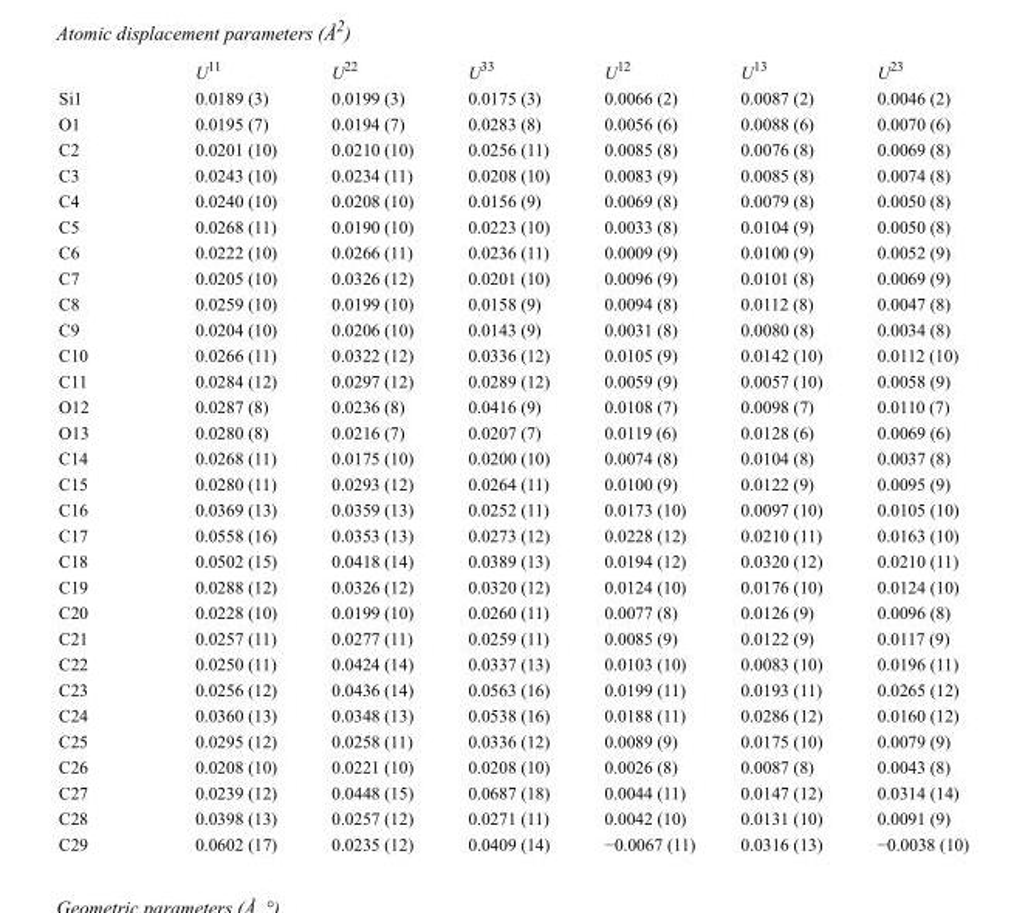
<table><thead><tr><td></td><td>U<sup>11</sup></td><td>U<sup>22</sup></td><td>U<sup>33</sup></td><td>U<sup>12</sup></td><td>U<sup>13</sup></td><td>U<sup>23</sup></td></tr></thead><tbody><tr><td>Si1</td><td>0.0189 (3)</td><td>0.0199 (3)</td><td>0.0175 (3)</td><td>0.0066 (2)</td><td>0.0087 (2)</td><td>0.0046 (2)</td></tr><tr><td>O1</td><td>0.0195 (7)</td><td>0.0194 (7)</td><td>0.0283 (8)</td><td>0.0056 (6)</td><td>0.0088 (6)</td><td>0.0070 (6)</td></tr><tr><td>C2</td><td>0.0201 (10)</td><td>0.0210 (10)</td><td>0.0256 (11)</td><td>0.0085 (8)</td><td>0.0076 (8)</td><td>0.0069 (8)</td></tr><tr><td>C3</td><td>0.0243 (10)</td><td>0.0234 (11)</td><td>0.0208 (10)</td><td>0.0083 (9)</td><td>0.0085 (8)</td><td>0.0074 (8)</td></tr><tr><td>C4</td><td>0.0240 (10)</td><td>0.0208 (10)</td><td>0.0156 (9)</td><td>0.0069 (8)</td><td>0.0079 (8)</td><td>0.0050 (8)</td></tr><tr><td>C5</td><td>0.0268 (11)</td><td>0.0190 (10)</td><td>0.0223 (10)</td><td>0.0033 (8)</td><td>0.0104 (9)</td><td>0.0050 (8)</td></tr><tr><td>C6</td><td>0.0222 (10)</td><td>0.0266 (11)</td><td>0.0236 (11)</td><td>0.0009 (9)</td><td>0.0100 (9)</td><td>0.0052 (9)</td></tr><tr><td>C7</td><td>0.0205 (10)</td><td>0.0326 (12)</td><td>0.0201 (10)</td><td>0.0096 (9)</td><td>0.0101 (8)</td><td>0.0069 (9)</td></tr><tr><td>C8</td><td>0.0259 (10)</td><td>0.0199 (10)</td><td>0.0158 (9)</td><td>0.0094 (8)</td><td>0.0112 (8)</td><td>0.0047 (8)</td></tr><tr><td>C9</td><td>0.0204 (10)</td><td>0.0206 (10)</td><td>0.0143 (9)</td><td>0.0031 (8)</td><td>0.0080 (8)</td><td>0.0034 (8)</td></tr><tr><td>C10</td><td>0.0266 (11)</td><td>0.0322 (12)</td><td>0.0336 (12)</td><td>0.0105 (9)</td><td>0.0142 (10)</td><td>0.0112 (10)</td></tr><tr><td>C11</td><td>0.0284 (12)</td><td>0.0297 (12)</td><td>0.0289 (12)</td><td>0.0059 (9)</td><td>0.0057 (10)</td><td>0.0058 (9)</td></tr><tr><td>O12</td><td>0.0287 (8)</td><td>0.0236 (8)</td><td>0.0416 (9)</td><td>0.0108 (7)</td><td>0.0098 (7)</td><td>0.0110 (7)</td></tr><tr><td>O13</td><td>0.0280 (8)</td><td>0.0216 (7)</td><td>0.0207 (7)</td><td>0.0119 (6)</td><td>0.0128 (6)</td><td>0.0069 (6)</td></tr><tr><td>C14</td><td>0.0268 (11)</td><td>0.0175 (10)</td><td>0.0200 (10)</td><td>0.0074 (8)</td><td>0.0104 (8)</td><td>0.0037 (8)</td></tr><tr><td>C15</td><td>0.0280 (11)</td><td>0.0293 (12)</td><td>0.0264 (11)</td><td>0.0100 (9)</td><td>0.0122 (9)</td><td>0.0095 (9)</td></tr><tr><td>C16</td><td>0.0369 (13)</td><td>0.0359 (13)</td><td>0.0252 (11)</td><td>0.0173 (10)</td><td>0.0097 (10)</td><td>0.0105 (10)</td></tr><tr><td>C17</td><td>0.0558 (16)</td><td>0.0353 (13)</td><td>0.0273 (12)</td><td>0.0228 (12)</td><td>0.0210 (11)</td><td>0.0163 (10)</td></tr><tr><td>C18</td><td>0.0502 (15)</td><td>0.0418 (14)</td><td>0.0389 (13)</td><td>0.0194 (12)</td><td>0.0320 (12)</td><td>0.0210 (11)</td></tr><tr><td>C19</td><td>0.0288 (12)</td><td>0.0326 (12)</td><td>0.0320 (12)</td><td>0.0124 (10)</td><td>0.0176 (10)</td><td>0.0124 (10)</td></tr><tr><td>C20</td><td>0.0228 (10)</td><td>0.0199 (10)</td><td>0.0260 (11)</td><td>0.0077 (8)</td><td>0.0126 (9)</td><td>0.0096 (8)</td></tr><tr><td>C21</td><td>0.0257 (11)</td><td>0.0277 (11)</td><td>0.0259 (11)</td><td>0.0085 (9)</td><td>0.0122 (9)</td><td>0.0117 (9)</td></tr><tr><td>C22</td><td>0.0250 (11)</td><td>0.0424 (14)</td><td>0.0337 (13)</td><td>0.0103 (10)</td><td>0.0083 (10)</td><td>0.0196 (11)</td></tr><tr><td>C23</td><td>0.0256 (12)</td><td>0.0436 (14)</td><td>0.0563 (16)</td><td>0.0199 (11)</td><td>0.0193 (11)</td><td>0.0265 (12)</td></tr><tr><td>C24</td><td>0.0360 (13)</td><td>0.0348 (13)</td><td>0.0538 (16)</td><td>0.0188 (11)</td><td>0.0286 (12)</td><td>0.0160 (12)</td></tr><tr><td>C25</td><td>0.0295 (12)</td><td>0.0258 (11)</td><td>0.0336 (12)</td><td>0.0089 (9)</td><td>0.0175 (10)</td><td>0.0079 (9)</td></tr><tr><td>C26</td><td>0.0208 (10)</td><td>0.0221 (10)</td><td>0.0208 (10)</td><td>0.0026 (8)</td><td>0.0087 (8)</td><td>0.0043 (8)</td></tr><tr><td>C27</td><td>0.0239 (12)</td><td>0.0448 (15)</td><td>0.0687 (18)</td><td>0.0044 (11)</td><td>0.0147 (12)</td><td>0.0314 (14)</td></tr><tr><td>C28</td><td>0.0398 (13)</td><td>0.0257 (12)</td><td>0.0271 (11)</td><td>0.0042 (10)</td><td>0.0131 (10)</td><td>0.0091 (9)</td></tr><tr><td>C29</td><td>0.0602 (17)</td><td>0.0235 (12)</td><td>0.0409 (14)</td><td>−0.0067 (11)</td><td>0.0316 (13)</td><td>−0.0038 (10)</td></tr></tbody></table>